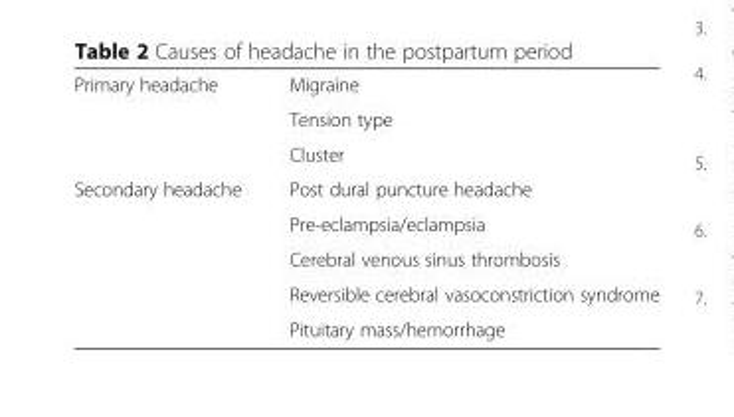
<table><tbody><tr><td rowspan="3">Primary headache</td><td>Migraine</td></tr><tr><td>Tension type</td></tr><tr><td>Cluster</td></tr><tr><td rowspan="5">Secondary headache</td><td>Post dural puncture headache</td></tr><tr><td>Pre-eclampsia/eclampsia</td></tr><tr><td>Cerebral venous sinus thrombosis</td></tr><tr><td>Reversible cerebral vasoconstriction syndrome</td></tr><tr><td>Pituitary mass/hemorrhage</td></tr></tbody></table>